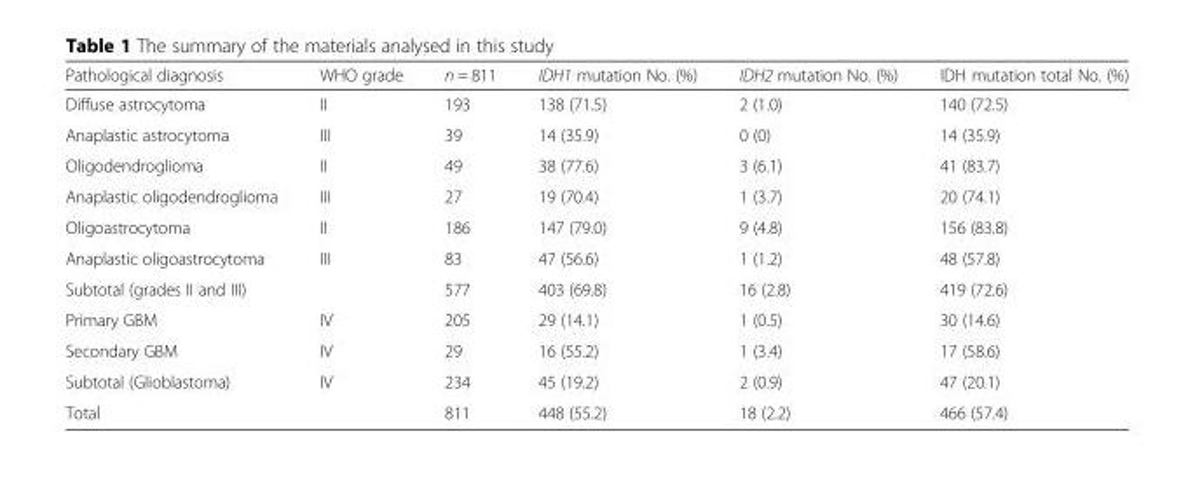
<table><thead><tr><td>Pathological diagnosis</td><td>WHO grade</td><td>n = 811</td><td>IDH1 mutation No. (%)</td><td>IDH2 mutation No. (%)</td><td>IDH mutation total No. (%)</td></tr></thead><tbody><tr><td>Diffuse astrocytoma</td><td>II</td><td>193</td><td>138 (71.5)</td><td>2 (1.0)</td><td>140 (72.5)</td></tr><tr><td>Anaplastic astrocytoma</td><td>III</td><td>39</td><td>14 (35.9)</td><td>0 (0)</td><td>14 (35.9)</td></tr><tr><td>Oligodendroglioma</td><td>II</td><td>49</td><td>38 (77.6)</td><td>3 (6.1)</td><td>41 (83.7)</td></tr><tr><td>Anaplastic oligodendroglioma</td><td>III</td><td>27</td><td>19 (70.4)</td><td>1 (3.7)</td><td>20 (74.1)</td></tr><tr><td>Oligoastrocytoma</td><td>II</td><td>186</td><td>147 (79.0)</td><td>9 (4.8)</td><td>156 (83.8)</td></tr><tr><td>Anaplastic oligoastrocytoma</td><td>III</td><td>83</td><td>47 (56.6)</td><td>1 (1.2)</td><td>48 (57.8)</td></tr><tr><td>Subtotal (grades II and III)</td><td></td><td>577</td><td>403 (69.8)</td><td>16 (2.8)</td><td>419 (72.6)</td></tr><tr><td>Primary GBM</td><td>IV</td><td>205</td><td>29 (14.1)</td><td>1 (0.5)</td><td>30 (14.6)</td></tr><tr><td>Secondary GBM</td><td>IV</td><td>29</td><td>16 (55.2)</td><td>1 (3.4)</td><td>17 (58.6)</td></tr><tr><td>Subtotal (Glioblastoma)</td><td>IV</td><td>234</td><td>45 (19.2)</td><td>2 (0.9)</td><td>47 (20.1)</td></tr><tr><td>Total</td><td></td><td>811</td><td>448 (55.2)</td><td>18 (2.2)</td><td>466 (57.4)</td></tr></tbody></table>